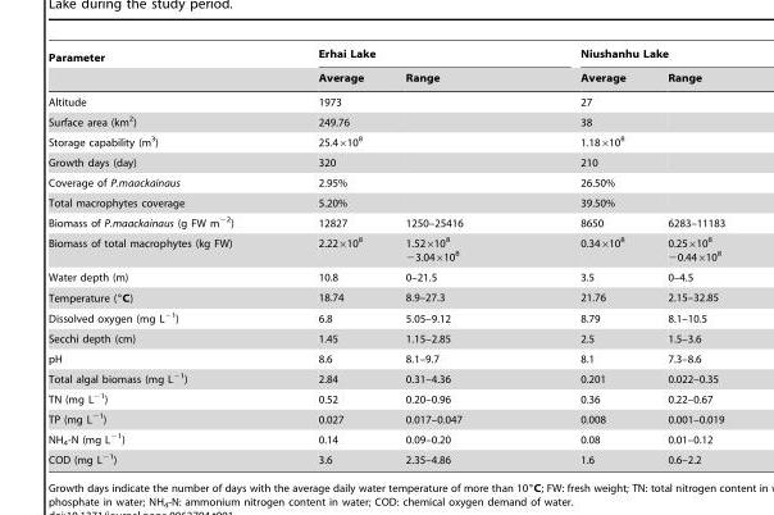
<table><thead><tr><td rowspan="2">Parameter</td><td colspan="2">Erhai Lake</td><td colspan="2">Niushanhu Lake</td></tr><tr><td>Average</td><td>Range</td><td>Average</td><td>Range</td></tr></thead><tbody><tr><td>Altitude</td><td>1973</td><td></td><td>27</td><td></td></tr><tr><td>Surface area (km<sup>2</sup>)</td><td>249.76</td><td></td><td>38</td><td></td></tr><tr><td>Storage capability (m<sup>3</sup>)</td><td>25.4×10<sup>8</sup></td><td></td><td>1.18×10<sup>8</sup></td><td></td></tr><tr><td>Growth days (day)</td><td>320</td><td></td><td>210</td><td></td></tr><tr><td>Coverage of P.maackainaus</td><td>2.95%</td><td></td><td>26.50%</td><td></td></tr><tr><td>Total macrophytes coverage</td><td>5.20%</td><td></td><td>39.50%</td><td></td></tr><tr><td>Biomass of P.maackainaus (g FW m<sup>−2</sup>)</td><td>12827</td><td>1250–25416</td><td>8650</td><td>6283–11183</td></tr><tr><td>Biomass of total macrophytes (kg FW)</td><td>2.22×10<sup>8</sup></td><td>1.52×10<sup>8</sup> −3.04×10<sup>8</sup></td><td>0.34×10<sup>8</sup></td><td>0.25×10<sup>8</sup> −0.44×10<sup>8</sup></td></tr><tr><td>Water depth (m)</td><td>10.8</td><td>0–21.5</td><td>3.5</td><td>0–4.5</td></tr><tr><td>Temperature (°C)</td><td>18.74</td><td>8.9–27.3</td><td>21.76</td><td>2.15–32.85</td></tr><tr><td>Dissolved oxygen (mg L<sup>−1</sup>)</td><td>6.8</td><td>5.05–9.12</td><td>8.79</td><td>8.1–10.5</td></tr><tr><td>Secchi depth (cm)</td><td>1.45</td><td>1.15–2.85</td><td>2.5</td><td>1.5–3.6</td></tr><tr><td>pH</td><td>8.6</td><td>8.1–9.7</td><td>8.1</td><td>7.3–8.6</td></tr><tr><td>Total algal biomass (mg L<sup>−1</sup>)</td><td>2.84</td><td>0.31–4.36</td><td>0.201</td><td>0.022–0.35</td></tr><tr><td>TN (mg L<sup>−1</sup>)</td><td>0.52</td><td>0.20–0.96</td><td>0.36</td><td>0.22–0.67</td></tr><tr><td>TP (mg L<sup>−1</sup>)</td><td>0.027</td><td>0.017–0.047</td><td>0.008</td><td>0.001–0.019</td></tr><tr><td>NH<sub>4</sub>-N (mg L<sup>−1</sup>)</td><td>0.14</td><td>0.09–0.20</td><td>0.08</td><td>0.01–0.12</td></tr><tr><td>COD (mg L<sup>−1</sup>)</td><td>3.6</td><td>2.35–4.86</td><td>1.6</td><td>0.6–2.2</td></tr></tbody></table>